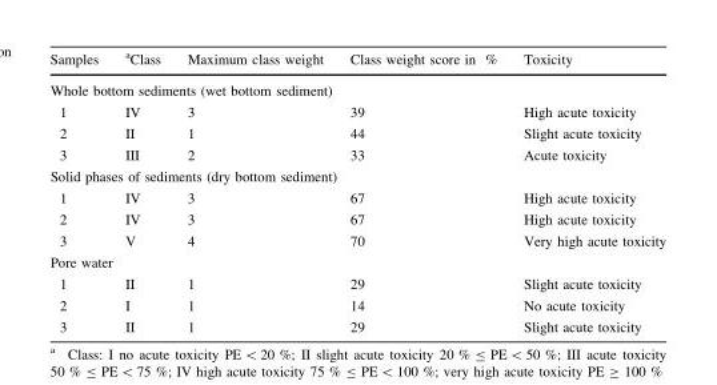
<table><thead><tr><td>Samples</td><td><sup>a</sup>Class</td><td>Maximum class weight</td><td>Class weight score in %</td><td>Toxicity</td></tr></thead><tbody><tr><td colspan="5">Whole bottom sediments (wet bottom sediment)</td></tr><tr><td>1</td><td>IV</td><td>3</td><td>39</td><td>High acute toxicity</td></tr><tr><td>2</td><td>II</td><td>1</td><td>44</td><td>Slight acute toxicity</td></tr><tr><td>3</td><td>III</td><td>2</td><td>33</td><td>Acute toxicity</td></tr><tr><td colspan="5">Solid phases of sediments (dry bottom sediment)</td></tr><tr><td>1</td><td>IV</td><td>3</td><td>67</td><td>High acute toxicity</td></tr><tr><td>2</td><td>IV</td><td>3</td><td>67</td><td>High acute toxicity</td></tr><tr><td>3</td><td>V</td><td>4</td><td>70</td><td>Very high acute toxicity</td></tr><tr><td colspan="5">Pore water</td></tr><tr><td>1</td><td>II</td><td>1</td><td>29</td><td>Slight acute toxicity</td></tr><tr><td>2</td><td>I</td><td>1</td><td>14</td><td>No acute toxicity</td></tr><tr><td>3</td><td>II</td><td>1</td><td>29</td><td>Slight acute toxicity</td></tr></tbody></table>